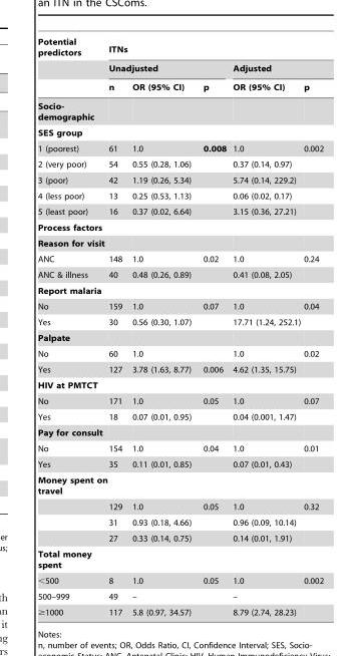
<table><thead><tr><td rowspan="3">Potential predictors</td><td colspan="5">ITNs</td></tr><tr><td colspan="3">Unadjusted</td><td colspan="2">Adjusted</td></tr><tr><td>n</td><td>OR (95% CI)</td><td>p</td><td>OR (95% CI)</td><td>p</td></tr></thead><tbody><tr><td colspan="6">Socio- demographic</td></tr><tr><td colspan="6">SES group</td></tr><tr><td>1 (poorest)</td><td>61</td><td>1.0</td><td>0.008</td><td>1.0</td><td>0.002</td></tr><tr><td>2 (very poor)</td><td>54</td><td>0.55 (0.28, 1.06)</td><td></td><td>0.37 (0.14, 0.97)</td><td></td></tr><tr><td>3 (poor)</td><td>42</td><td>1.19 (0.26, 5.34)</td><td></td><td>5.74 (0.14, 229.2)</td><td></td></tr><tr><td>4 (less poor)</td><td>13</td><td>0.25 (0.53, 1.13)</td><td></td><td>0.06 (0.02, 0.17)</td><td></td></tr><tr><td>5 (least poor)</td><td>16</td><td>0.37 (0.02, 6.64)</td><td></td><td>3.15 (0.36, 27.21)</td><td></td></tr><tr><td colspan="6">Process factors</td></tr><tr><td colspan="6">Reason for visit</td></tr><tr><td>ANC</td><td>148</td><td>1.0</td><td>0.02</td><td>1.0</td><td>0.24</td></tr><tr><td>ANC &amp; illness</td><td>40</td><td>0.48 (0.26, 0.89)</td><td></td><td>0.41 (0.08, 2.05)</td><td></td></tr><tr><td colspan="6">Report malaria</td></tr><tr><td>No</td><td>159</td><td>1.0</td><td>0.07</td><td>1.0</td><td>0.04</td></tr><tr><td>Yes</td><td>30</td><td>0.56 (0.30, 1.07)</td><td></td><td>17.71 (1.24, 252.1)</td><td></td></tr><tr><td colspan="6">Palpate</td></tr><tr><td>No</td><td>60</td><td>1.0</td><td></td><td>1.0</td><td>0.02</td></tr><tr><td>Yes</td><td>127</td><td>3.78 (1.63, 8.77)</td><td>0.006</td><td>4.62 (1.35, 15.75)</td><td></td></tr><tr><td colspan="6">HIV at PMTCT</td></tr><tr><td>No</td><td>171</td><td>1.0</td><td>0.05</td><td>1.0</td><td>0.07</td></tr><tr><td>Yes</td><td>18</td><td>0.07 (0.01, 0.95)</td><td></td><td>0.04 (0.001, 1.47)</td><td></td></tr><tr><td colspan="6">Pay for consult</td></tr><tr><td>No</td><td>154</td><td>1.0</td><td>0.04</td><td>1.0</td><td>0.01</td></tr><tr><td>Yes</td><td>35</td><td>0.11 (0.01, 0.85)</td><td></td><td>0.07 (0.01, 0.43)</td><td></td></tr><tr><td colspan="6">Money spent on travel</td></tr><tr><td></td><td>129</td><td>1.0</td><td>0.05</td><td>1.0</td><td>0.32</td></tr><tr><td></td><td>31</td><td>0.93 (0.18, 4.66)</td><td></td><td>0.96 (0.09, 10.14)</td><td></td></tr><tr><td></td><td>27</td><td>0.33 (0.14, 0.75)</td><td></td><td>0.14 (0.01, 1.91)</td><td></td></tr><tr><td colspan="6">Total money spent</td></tr><tr><td>&lt;500</td><td>8</td><td>1.0</td><td>0.05</td><td>1.0</td><td>0.002</td></tr><tr><td>500–999</td><td>49</td><td>–</td><td></td><td>–</td><td></td></tr><tr><td>≥1000</td><td>117</td><td>5.8 (0.97, 34.57)</td><td></td><td>8.79 (2.74, 28.23)</td><td></td></tr></tbody></table>